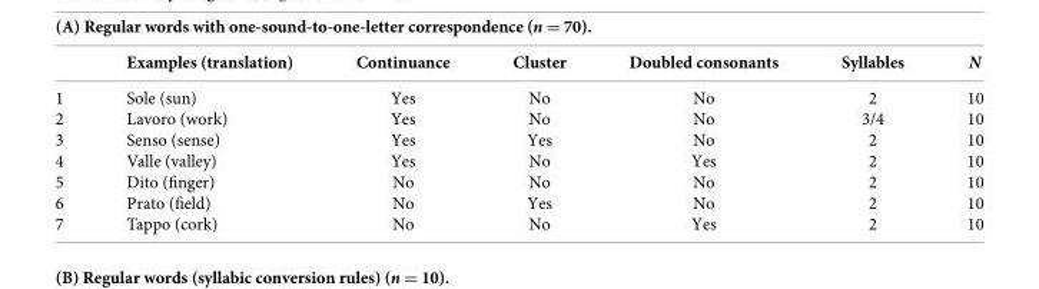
<table><thead><tr><td></td><td>Examples (translation)</td><td>Continuance</td><td>Cluster</td><td>Doubled consonants</td><td>Syllables</td><td>N</td></tr></thead><tbody><tr><td>1</td><td>Sole (sun)</td><td>Yes</td><td>No</td><td>No</td><td>2</td><td>10</td></tr><tr><td>2</td><td>Lavoro (work)</td><td>Yes</td><td>No</td><td>No</td><td>3/4</td><td>10</td></tr><tr><td>3</td><td>Senso (sense)</td><td>Yes</td><td>Yes</td><td>No</td><td>2</td><td>10</td></tr><tr><td>4</td><td>Valle (valley)</td><td>Yes</td><td>No</td><td>Yes</td><td>2</td><td>10</td></tr><tr><td>5</td><td>Dito (finger)</td><td>No</td><td>No</td><td>No</td><td>2</td><td>10</td></tr><tr><td>6</td><td>Prato (field)</td><td>No</td><td>Yes</td><td>No</td><td>2</td><td>10</td></tr><tr><td>7</td><td>Tappo (cork)</td><td>No</td><td>No</td><td>Yes</td><td>2</td><td>10</td></tr></tbody></table>